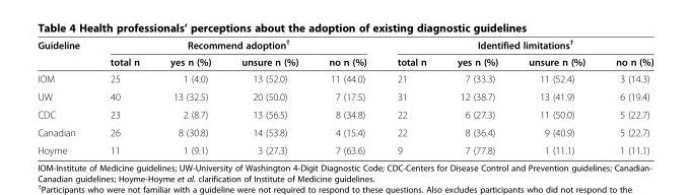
<table><thead><tr><td rowspan="2">Guideline</td><td colspan="4">Recommend adoption<sup>†</sup></td><td colspan="4">Identified limitations<sup>†</sup></td></tr><tr><td>total n</td><td>yes n (%)</td><td>unsure n (%)</td><td>no n (%)</td><td>total n</td><td>yes n (%)</td><td>unsure n (%)</td><td>no n (%)</td></tr></thead><tbody><tr><td>IOM</td><td>25</td><td>1 (4.0)</td><td>13 (52.0)</td><td>11 (44.0)</td><td>21</td><td>7 (33.3)</td><td>11 (52.4)</td><td>3 (14.3)</td></tr><tr><td>UW</td><td>40</td><td>13 (32.5)</td><td>20 (50.0)</td><td>7 (17.5)</td><td>31</td><td>12 (38.7)</td><td>13 (41.9)</td><td>6 (19.4)</td></tr><tr><td>CDC</td><td>23</td><td>2 (8.7)</td><td>13 (56.5)</td><td>8 (34.8)</td><td>22</td><td>6 (27.3)</td><td>11 (50.0)</td><td>5 (22.7)</td></tr><tr><td>Canadian</td><td>26</td><td>8 (30.8)</td><td>14 (53.8)</td><td>4 (15.4)</td><td>22</td><td>8 (36.4)</td><td>9 (40.9)</td><td>5 (22.7)</td></tr><tr><td>Hoyme</td><td>11</td><td>1 (9.1)</td><td>3 (27.3)</td><td>7 (63.6)</td><td>9</td><td>7 (77.8)</td><td>1 (11.1)</td><td>1 (11.1)</td></tr></tbody></table>